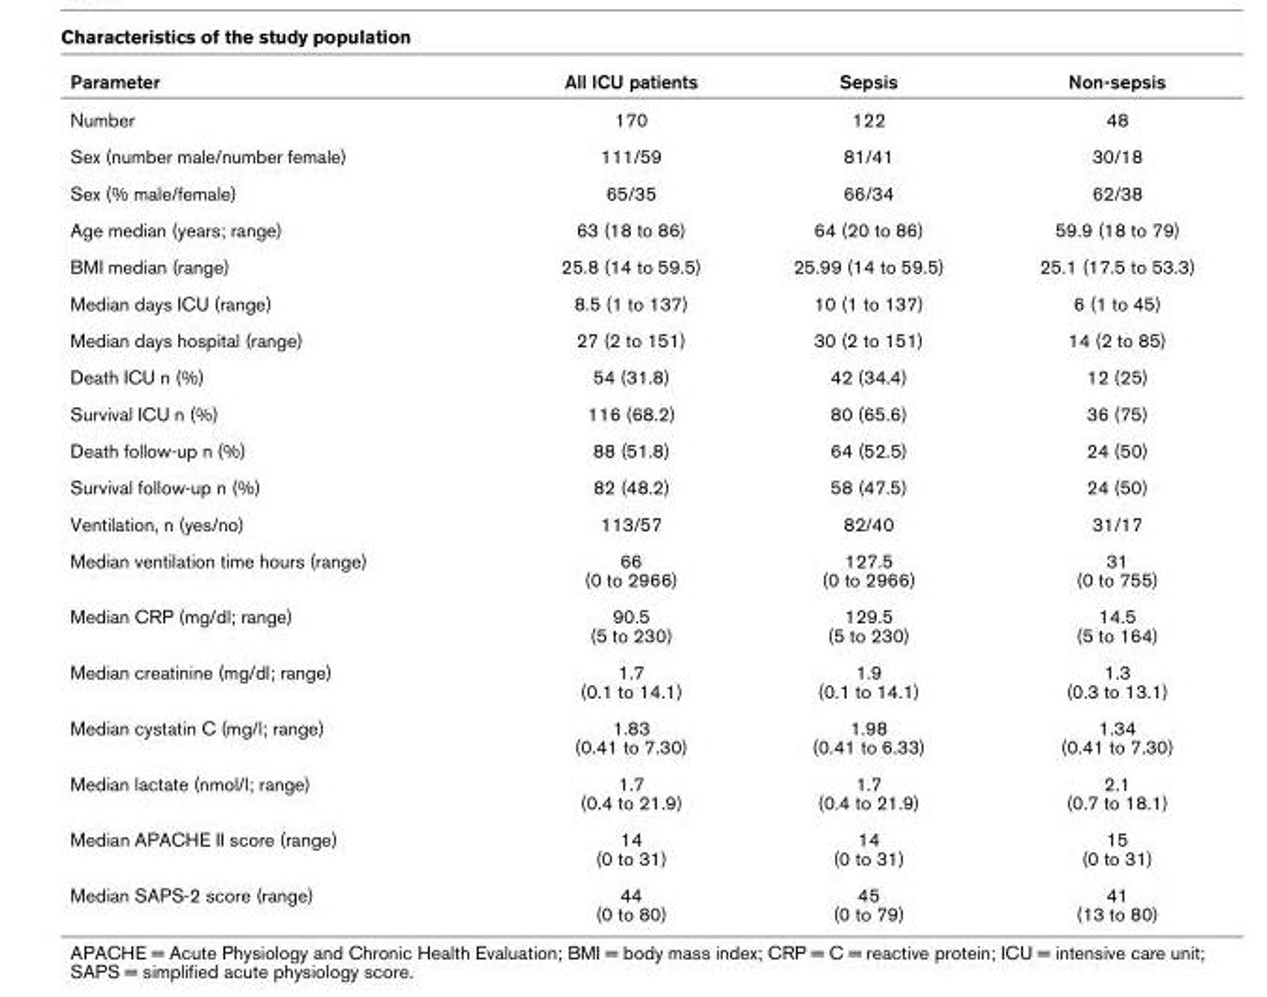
<table><thead><tr><td>Parameter</td><td>All ICU patients</td><td>Sepsis</td><td>Non-sepsis</td></tr></thead><tbody><tr><td>Number</td><td>170</td><td>122</td><td>48</td></tr><tr><td>Sex (number male/number female)</td><td>111/59</td><td>81/41</td><td>30/18</td></tr><tr><td>Sex (% male/female)</td><td>65/35</td><td>66/34</td><td>62/38</td></tr><tr><td>Age median (years; range)</td><td>63 (18 to 86)</td><td>64 (20 to 86)</td><td>59.9 (18 to 79)</td></tr><tr><td>BMI median (range)</td><td>25.8 (14 to 59.5)</td><td>25.99 (14 to 59.5)</td><td>25.1 (17.5 to 53.3)</td></tr><tr><td>Median days ICU (range)</td><td>8.5 (1 to 137)</td><td>10 (1 to 137)</td><td>6 (1 to 45)</td></tr><tr><td>Median days hospital (range)</td><td>27 (2 to 151)</td><td>30 (2 to 151)</td><td>14 (2 to 85)</td></tr><tr><td>Death ICU n (%)</td><td>54 (31.8)</td><td>42 (34.4)</td><td>12 (25)</td></tr><tr><td>Survival ICU n (%)</td><td>116 (68.2)</td><td>80 (65.6)</td><td>36 (75)</td></tr><tr><td>Death follow-up n (%)</td><td>88 (51.8)</td><td>64 (52.5)</td><td>24 (50)</td></tr><tr><td>Survival follow-up n (%)</td><td>82 (48.2)</td><td>58 (47.5)</td><td>24 (50)</td></tr><tr><td>Ventilation, n (yes/no)</td><td>113/57</td><td>82/40</td><td>31/17</td></tr><tr><td>Median ventilation time hours (range)</td><td>66 (0 to 2966)</td><td>127.5 (0 to 2966)</td><td>31 (0 to 755)</td></tr><tr><td>Median CRP (mg/dl; range)</td><td>90.5 (5 to 230)</td><td>129.5 (5 to 230)</td><td>14.5 (5 to 164)</td></tr><tr><td>Median creatinine (mg/dl; range)</td><td>1.7 (0.1 to 14.1)</td><td>1.9 (0.1 to 14.1)</td><td>1.3 (0.3 to 13.1)</td></tr><tr><td>Median cystatin C (mg/l; range)</td><td>1.83 (0.41 to 7.30)</td><td>1.98 (0.41 to 6.33)</td><td>1.34 (0.41 to 7.30)</td></tr><tr><td>Median lactate (nmol/l; range)</td><td>1.7 (0.4 to 21.9)</td><td>1.7 (0.4 to 21.9)</td><td>2.1 (0.7 to 18.1)</td></tr><tr><td>Median APACHE II score (range)</td><td>14 (0 to 31)</td><td>14 (0 to 31)</td><td>15 (0 to 31)</td></tr><tr><td>Median SAPS-2 score (range)</td><td>44 (0 to 80)</td><td>45 (0 to 79)</td><td>41 (13 to 80)</td></tr></tbody></table>